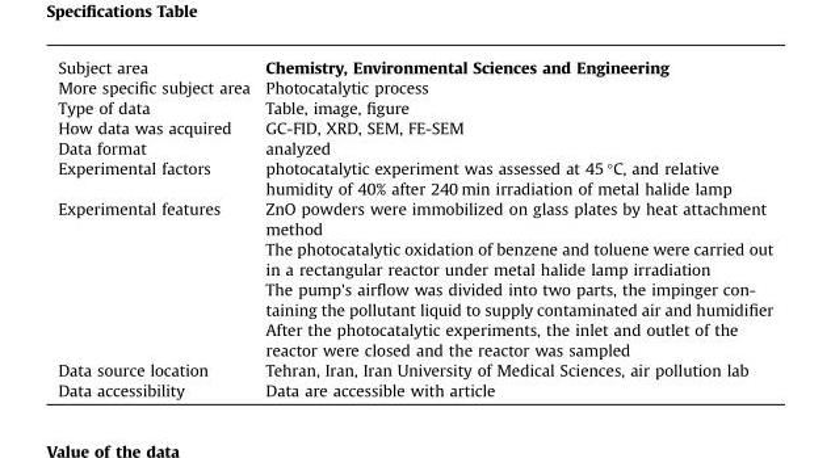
<table><tbody><tr><td>Subject area</td><td>Chemistry, Environmental Sciences and Engineering</td></tr><tr><td>More specific subject area</td><td>Photocatalytic process</td></tr><tr><td>Type of data</td><td>Table, image, figure</td></tr><tr><td>How data was acquired</td><td>GC-FID, XRD, SEM, FE-SEM</td></tr><tr><td>Data format</td><td>analyzed</td></tr><tr><td>Experimental factors</td><td>photocatalytic experiment was assessed at 45 °C, and relative humidity of 40% after 240 min irradiation of metal halide lamp</td></tr><tr><td rowspan="4">Experimental features</td><td>ZnO powders were immobilized on glass plates by heat attachment method</td></tr><tr><td>The photocatalytic oxidation of benzene and toluene were carried out in a rectangular reactor under metal halide lamp irradiation</td></tr><tr><td>The pump&#x27;s airflow was divided into two parts, the impinger con- taining the pollutant liquid to supply contaminated air and humidifier</td></tr><tr><td>After the photocatalytic experiments, the inlet and outlet of the reactor were closed and the reactor was sampled</td></tr><tr><td>Data source location</td><td>Tehran, Iran, Iran University of Medical Sciences, air pollution lab</td></tr><tr><td>Data accessibility</td><td>Data are accessible with article</td></tr></tbody></table>